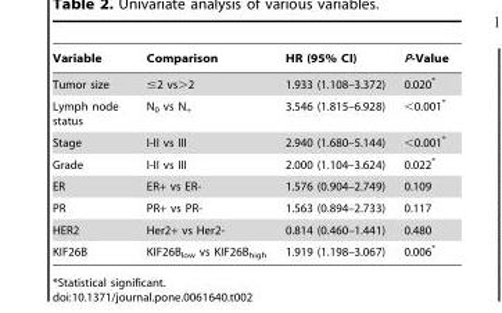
<table><thead><tr><td>Variable</td><td>Comparison</td><td>HR (95% CI)</td><td>P-Value</td></tr></thead><tbody><tr><td>Tumor size</td><td>≤2 vs&gt;2</td><td>1.933 (1.108–3.372)</td><td>0.020*</td></tr><tr><td>Lymph node status</td><td>N<sub>0</sub> vs N<sub>+</sub></td><td>3.546 (1.815–6.928)</td><td>&lt;0.001*</td></tr><tr><td>Stage</td><td>I-II vs III</td><td>2.940 (1.680–5.144)</td><td>&lt;0.001*</td></tr><tr><td>Grade</td><td>I-II vs III</td><td>2.000 (1.104–3.624)</td><td>0.022*</td></tr><tr><td>ER</td><td>ER+ vs ER-</td><td>1.576 (0.904–2.749)</td><td>0.109</td></tr><tr><td>PR</td><td>PR+ vs PR-</td><td>1.563 (0.894–2.733)</td><td>0.117</td></tr><tr><td>HER2</td><td>Her2+ vs Her2-</td><td>0.814 (0.460–1.441)</td><td>0.480</td></tr><tr><td>KIF26B</td><td>KIF26B<sub>low</sub> vs KIF26B<sub>high</sub></td><td>1.919 (1.198–3.067)</td><td>0.006*</td></tr></tbody></table>